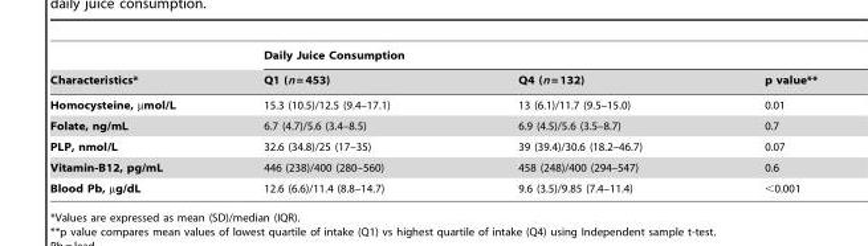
<table><thead><tr><td rowspan="2">Characteristics*</td><td colspan="3">Daily Juice Consumption</td></tr><tr><td>Q1 (n = 453)</td><td>Q4 (n = 132)</td><td>p value**</td></tr></thead><tbody><tr><td>Homocysteine, µmol/L</td><td>15.3 (10.5)/12.5 (9.4–17.1)</td><td>13 (6.1)/11.7 (9.5–15.0)</td><td>0.01</td></tr><tr><td>Folate, ng/mL</td><td>6.7 (4.7)/5.6 (3.4–8.5)</td><td>6.9 (4.5)/5.6 (3.5–8.7)</td><td>0.7</td></tr><tr><td>PLP, nmol/L</td><td>32.6 (34.8)/25 (17–35)</td><td>39 (39.4)/30.6 (18.2–46.7)</td><td>0.07</td></tr><tr><td>Vitamin-B12, pg/mL</td><td>446 (238)/400 (280–560)</td><td>458 (248)/400 (294–547)</td><td>0.6</td></tr><tr><td>Blood Pb, µg/dL</td><td>12.6 (6.6)/11.4 (8.8–14.7)</td><td>9.6 (3.5)/9.85 (7.4–11.4)</td><td>&lt;0.001</td></tr></tbody></table>